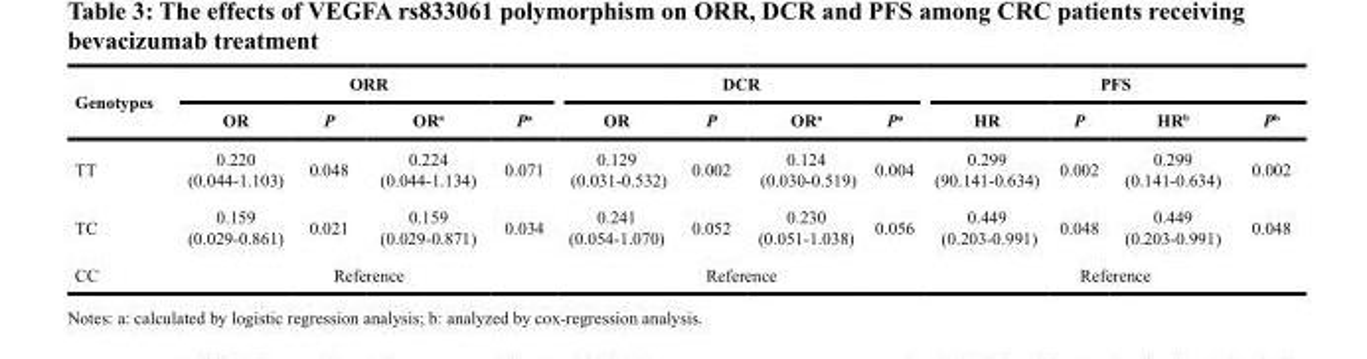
<table><thead><tr><td rowspan="2">Genotypes</td><td colspan="4">ORR</td><td colspan="4">DCR</td><td colspan="4">PFS</td></tr><tr><td>OR</td><td>P</td><td>OR<sup>a</sup></td><td>P<sup>a</sup></td><td>OR</td><td>P</td><td>OR<sup>a</sup></td><td>P<sup>a</sup></td><td>HR</td><td>P</td><td>HR<sup>b</sup></td><td>P<sup>b</sup></td></tr></thead><tbody><tr><td>TT</td><td>0.220 (0.044-1.103)</td><td>0.048</td><td>0.224 (0.044-1.134)</td><td>0.071</td><td>0.129 (0.031-0.532)</td><td>0.002</td><td>0.124 (0.030-0.519)</td><td>0.004</td><td>0.299 (90.141-0.634)</td><td>0.002</td><td>0.299 (0.141-0.634)</td><td>0.002</td></tr><tr><td>TC</td><td>0.159 (0.029-0.861)</td><td>0.021</td><td>0.159 (0.029-0.871)</td><td>0.034</td><td>0.241 (0.054-1.070)</td><td>0.052</td><td>0.230 (0.051-1.038)</td><td>0.056</td><td>0.449 (0.203-0.991)</td><td>0.048</td><td>0.449 (0.203-0.991)</td><td>0.048</td></tr><tr><td>CC</td><td colspan="4">Reference</td><td colspan="4">Reference</td><td colspan="4">Reference</td></tr></tbody></table>